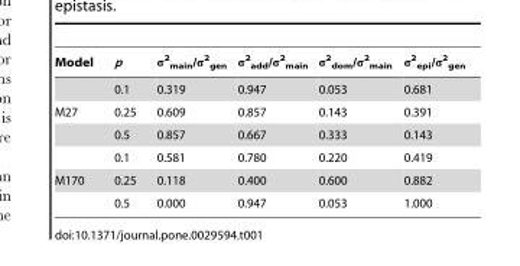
<table><thead><tr><td>Model</td><td>p</td><td>σ<sup>2</sup> <sub>main</sub>/σ<sup>2</sup> <sub>gen</sub></td><td>σ<sup>2</sup> <sub>add</sub>/σ<sup>2</sup> <sub>main</sub></td><td>σ<sup>2</sup> <sub>dom</sub>/σ<sup>2</sup> <sub>main</sub></td><td>σ<sup>2</sup> <sub>epi</sub>/σ<sup>2</sup> <sub>gen</sub></td></tr></thead><tbody><tr><td></td><td>0.1</td><td>0.319</td><td>0.947</td><td>0.053</td><td>0.681</td></tr><tr><td rowspan="3">M27</td><td>0.25</td><td>0.609</td><td>0.857</td><td>0.143</td><td>0.391</td></tr><tr><td>0.5</td><td>0.857</td><td>0.667</td><td>0.333</td><td>0.143</td></tr><tr><td>0.1</td><td>0.581</td><td>0.780</td><td>0.220</td><td>0.419</td></tr><tr><td rowspan="2">M170</td><td>0.25</td><td>0.118</td><td>0.400</td><td>0.600</td><td>0.882</td></tr><tr><td>0.5</td><td>0.000</td><td>0.947</td><td>0.053</td><td>1.000</td></tr></tbody></table>